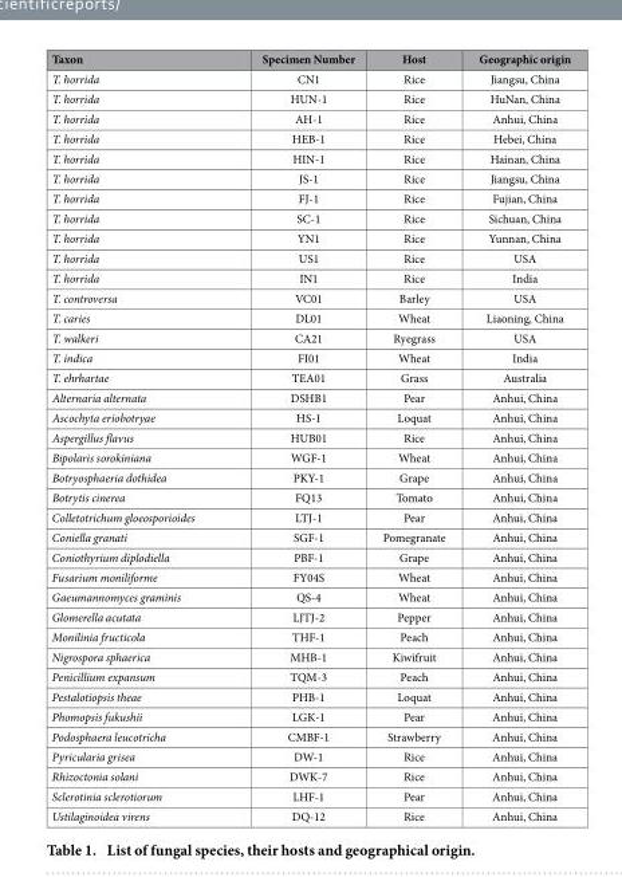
<table><thead><tr><td>Taxon</td><td>Specimen Number</td><td>Host</td><td>Geographic origin</td></tr></thead><tbody><tr><td>T. horrida</td><td>CN1</td><td>Rice</td><td>Jiangsu, China</td></tr><tr><td>T. horrida</td><td>HUN-1</td><td>Rice</td><td>HuNan, China</td></tr><tr><td>T. horrida</td><td>AH-1</td><td>Rice</td><td>Anhui, China</td></tr><tr><td>T. horrida</td><td>HEB-1</td><td>Rice</td><td>Hebei, China</td></tr><tr><td>T. horrida</td><td>HIN-1</td><td>Rice</td><td>Hainan, China</td></tr><tr><td>T. horrida</td><td>JS-1</td><td>Rice</td><td>Jiangsu, China</td></tr><tr><td>T. horrida</td><td>FJ-1</td><td>Rice</td><td>Fujian, China</td></tr><tr><td>T. horrida</td><td>SC-1</td><td>Rice</td><td>Sichuan, China</td></tr><tr><td>T. horrida</td><td>YN1</td><td>Rice</td><td>Yunnan, China</td></tr><tr><td>T. horrida</td><td>US1</td><td>Rice</td><td>USA</td></tr><tr><td>T. horrida</td><td>IN1</td><td>Rice</td><td>India</td></tr><tr><td>T. controversa</td><td>VC01</td><td>Barley</td><td>USA</td></tr><tr><td>T. caries</td><td>DL01</td><td>Wheat</td><td>Liaoning, China</td></tr><tr><td>T. walkeri</td><td>CA21</td><td>Ryegrass</td><td>USA</td></tr><tr><td>T. indica</td><td>FI01</td><td>Wheat</td><td>India</td></tr><tr><td>T. ehrhartae</td><td>TEA01</td><td>Grass</td><td>Australia</td></tr><tr><td>Alternaria alternata</td><td>DSHB1</td><td>Pear</td><td>Anhui, China</td></tr><tr><td>Ascochyta eriobotryae</td><td>HS-1</td><td>Loquat</td><td>Anhui, China</td></tr><tr><td>Aspergillus flavus</td><td>HUB01</td><td>Rice</td><td>Anhui, China</td></tr><tr><td>Bipolaris sorokiniana</td><td>WGF-1</td><td>Wheat</td><td>Anhui, China</td></tr><tr><td>Botryosphaeria dothidea</td><td>PKY-1</td><td>Grape</td><td>Anhui, China</td></tr><tr><td>Botrytis cinerea</td><td>FQ13</td><td>Tomato</td><td>Anhui, China</td></tr><tr><td>Colletotrichum gloeosporioides</td><td>LTJ-1</td><td>Pear</td><td>Anhui, China</td></tr><tr><td>Coniella granati</td><td>SGF-1</td><td>Pomegranate</td><td>Anhui, China</td></tr><tr><td>Coniothyrium diplodiella</td><td>PBF-1</td><td>Grape</td><td>Anhui, China</td></tr><tr><td>Fusarium moniliforme</td><td>FY04S</td><td>Wheat</td><td>Anhui, China</td></tr><tr><td>Gaeumannomyces graminis</td><td>QS-4</td><td>Wheat</td><td>Anhui, China</td></tr><tr><td>Glomerella acutata</td><td>LJTJ-2</td><td>Pepper</td><td>Anhui, China</td></tr><tr><td>Monilinia fructicola</td><td>THF-1</td><td>Peach</td><td>Anhui, China</td></tr><tr><td>Nigrospora sphaerica</td><td>MHB-1</td><td>Kiwifruit</td><td>Anhui, China</td></tr><tr><td>Penicillium expansum</td><td>TQM-3</td><td>Peach</td><td>Anhui, China</td></tr><tr><td>Pestalotiopsis theae</td><td>PHB-1</td><td>Loquat</td><td>Anhui, China</td></tr><tr><td>Phomopsis fukushii</td><td>LGK-1</td><td>Pear</td><td>Anhui, China</td></tr><tr><td>Podosphaera leucotricha</td><td>CMBF-1</td><td>Strawberry</td><td>Anhui, China</td></tr><tr><td>Pyricularia grisea</td><td>DW-1</td><td>Rice</td><td>Anhui, China</td></tr><tr><td>Rhizoctonia solani</td><td>DWK-7</td><td>Rice</td><td>Anhui, China</td></tr><tr><td>Sclerotinia sclerotiorum</td><td>LHF-1</td><td>Pear</td><td>Anhui, China</td></tr><tr><td>Ustilaginoidea virens</td><td>DQ-12</td><td>Rice</td><td>Anhui, China</td></tr></tbody></table>